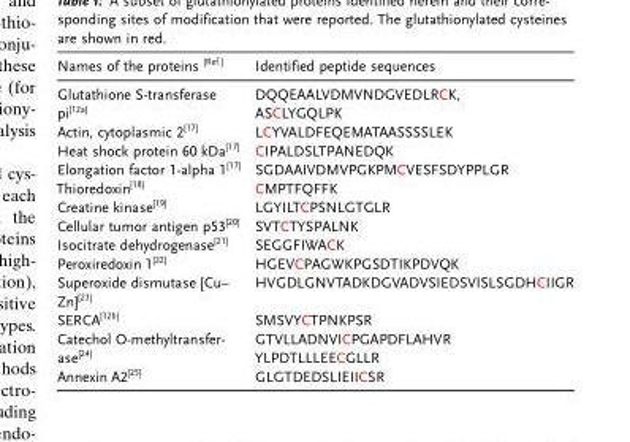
<table><thead><tr><td>Names of the proteins <sup>[Ref.]</sup></td><td>Identified peptide sequences</td></tr></thead><tbody><tr><td>Glutathione S-transferase pi[12a]</td><td>DQQEAALVDMVNDGVEDLRCK, ASCLYGQLPK</td></tr><tr><td>Actin, cytoplasmic 2[17]</td><td>LCYVALDFEQEMATAASSSSLEK</td></tr><tr><td>Heat shock protein 60 kDa[17]</td><td>CIPALDSLTPANEDQK</td></tr><tr><td>Elongation factor 1-alpha 1[17]</td><td>SGDAAIVDMVPGKPMCVESFSDYPPLGR</td></tr><tr><td>Thioredoxin[18]</td><td>CMPTFQFFK</td></tr><tr><td>Creatine kinase[19]</td><td>LGYILTCPSNLGTGLR</td></tr><tr><td>Cellular tumor antigen p53[20]</td><td>SVTCTYSPALNK</td></tr><tr><td>Isocitrate dehydrogenase[21]</td><td>SEGGFIWACK</td></tr><tr><td>Peroxiredoxin 1[22]</td><td>HGEVCPAGWKPGSDTIKPDVQK</td></tr><tr><td>Superoxide dismutase [Cu– Zn][23]</td><td>HVGDLGNVTADKDGVADVSIEDSVISLSGDHCIIGR</td></tr><tr><td>SERCA[12b]</td><td>SMSVYCTPNKPSR</td></tr><tr><td>Catechol O-methyltransfer- ase[24]</td><td>GTVLLADNVICPGAPDFLAHVR YLPDTLLLEECGLLR</td></tr><tr><td>Annexin A2[25]</td><td>GLGTDEDSLIEIICSR</td></tr></tbody></table>